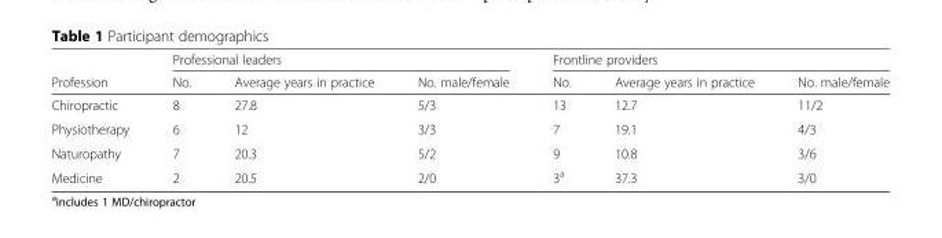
<table><thead><tr><td rowspan="2">Profession</td><td colspan="3">Professional leaders</td><td colspan="3">Frontline providers</td></tr><tr><td>No.</td><td>Average years in practice</td><td>No. male/female</td><td>No.</td><td>Average years in practice</td><td>No. male/female</td></tr></thead><tbody><tr><td>Chiropractic</td><td>8</td><td>27.8</td><td>5/3</td><td>13</td><td>12.7</td><td>11/2</td></tr><tr><td>Physiotherapy</td><td>6</td><td>12</td><td>3/3</td><td>7</td><td>19.1</td><td>4/3</td></tr><tr><td>Naturopathy</td><td>7</td><td>20.3</td><td>5/2</td><td>9</td><td>10.8</td><td>3/6</td></tr><tr><td>Medicine</td><td>2</td><td>20.5</td><td>2/0</td><td>3<sup>a</sup></td><td>37.3</td><td>3/0</td></tr></tbody></table>